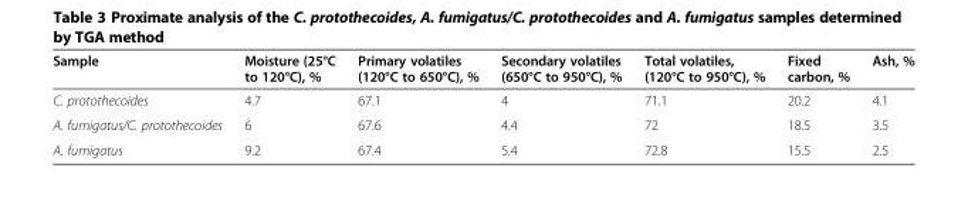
<table><thead><tr><td>Sample</td><td>Moisture (25°C to 120°C), %</td><td>Primary volatiles (120°C to 650°C), %</td><td>Secondary volatiles (650°C to 950°C), %</td><td>Total volatiles, (120°C to 950°C), %</td><td>Fixed carbon, %</td><td>Ash, %</td></tr></thead><tbody><tr><td>C. protothecoides</td><td>4.7</td><td>67.1</td><td>4</td><td>71.1</td><td>20.2</td><td>4.1</td></tr><tr><td>A. fumigatus/C. protothecoides</td><td>6</td><td>67.6</td><td>4.4</td><td>72</td><td>18.5</td><td>3.5</td></tr><tr><td>A. fumigatus</td><td>9.2</td><td>67.4</td><td>5.4</td><td>72.8</td><td>15.5</td><td>2.5</td></tr></tbody></table>